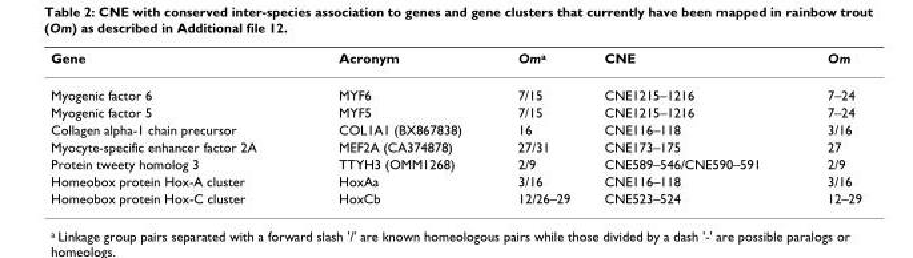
<table><thead><tr><td>Gene</td><td>Acronym</td><td>Om<sup>a</sup></td><td>CNE</td><td>Om</td></tr></thead><tbody><tr><td>Myogenic factor 6</td><td>MYF6</td><td>7/15</td><td>CNE1215–1216</td><td>7–24</td></tr><tr><td>Myogenic factor 5</td><td>MYF5</td><td>7/15</td><td>CNE1215–1216</td><td>7–24</td></tr><tr><td>Collagen alpha-1 chain precursor</td><td>COL1A1 (BX867838)</td><td>16</td><td>CNE116–118</td><td>3/16</td></tr><tr><td>Myocyte-specific enhancer factor 2A</td><td>MEF2A (CA374878)</td><td>27/31</td><td>CNE173–175</td><td>27</td></tr><tr><td>Protein tweety homolog 3</td><td>TTYH3 (OMM1268)</td><td>2/9</td><td>CNE589–546/CNE590–591</td><td>2/9</td></tr><tr><td>Homeobox protein Hox-A cluster</td><td>HoxAa</td><td>3/16</td><td>CNE116–118</td><td>3/16</td></tr><tr><td>Homeobox protein Hox-C cluster</td><td>HoxCb</td><td>12/26–29</td><td>CNE523–524</td><td>12–29</td></tr></tbody></table>